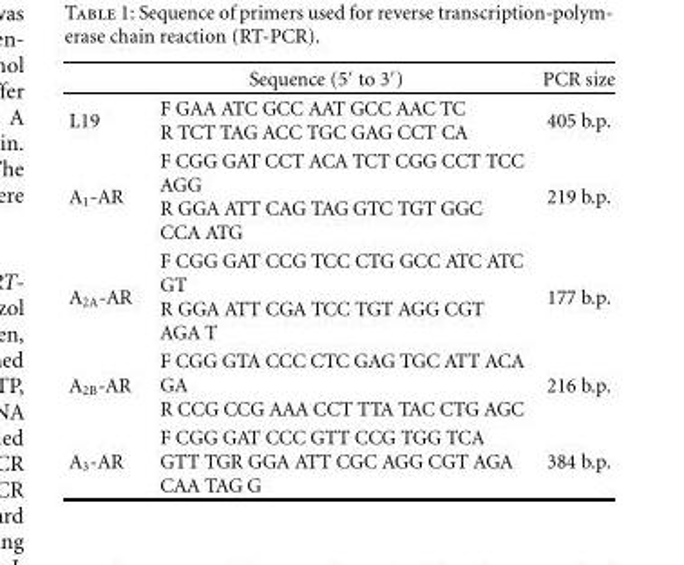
<table><thead><tr><td></td><td>Sequence (5′ to 3′)</td><td>PCR size</td></tr></thead><tbody><tr><td>L19</td><td>F GAA ATC GCC AAT GCC AAC TC R TCT TAG ACC TGC GAG CCT CA</td><td>405 b.p.</td></tr><tr><td>A<sub>1</sub>-AR</td><td>F CGG GAT CCT ACA TCT CGG CCT TCC AGG R GGA ATT CAG TAG GTC TGT GGC CCA ATG</td><td>219 b.p.</td></tr><tr><td>A<sub>2A</sub>-AR</td><td>F CGG GAT CCG TCC CTG GCC ATC ATC GT R GGA ATT CGA TCC TGT AGG CGT AGA T</td><td>177 b.p.</td></tr><tr><td>A<sub>2B</sub>-AR</td><td>F CGG GTA CCC CTC GAG TGC ATT ACA GA R CCG CCG AAA CCT TTA TAC CTG AGC</td><td>216 b.p.</td></tr><tr><td>A<sub>3</sub>-AR</td><td>F CGG GAT CCC GTT CCG TGG TCA GTT TGR GGA ATT CGC AGG CGT AGA CAA TAG G</td><td>384 b.p.</td></tr></tbody></table>